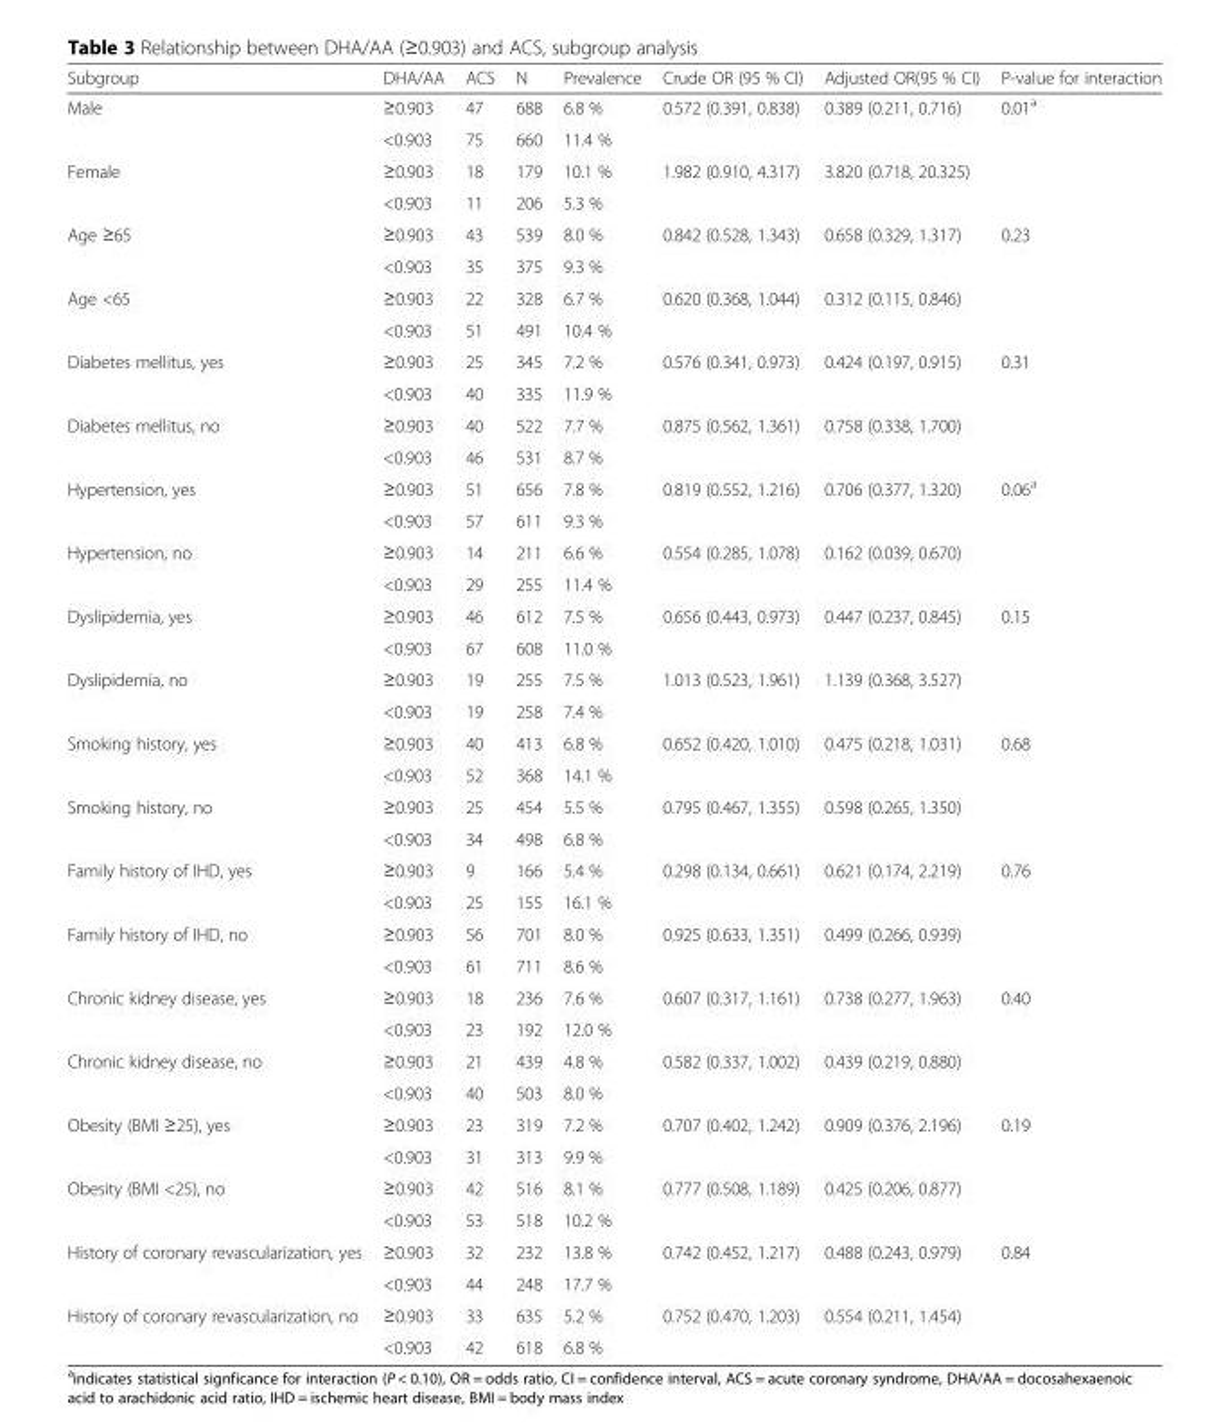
<table><thead><tr><td>Subgroup</td><td>DHA/AA</td><td>ACS</td><td>N</td><td>Prevalence</td><td>Crude OR (95 % CI)</td><td>Adjusted OR(95 % CI)</td><td>P-value for interaction</td></tr></thead><tbody><tr><td rowspan="2">Male</td><td>≥0.903</td><td>47</td><td>688</td><td>6.8 %</td><td>0.572 (0.391, 0.838)</td><td>0.389 (0.211, 0.716)</td><td rowspan="4">0.01<sup>a</sup></td></tr><tr><td>&lt;0.903</td><td>75</td><td>660</td><td>11.4 %</td><td></td><td></td></tr><tr><td rowspan="2">Female</td><td>≥0.903</td><td>18</td><td>179</td><td>10.1 %</td><td>1.982 (0.910, 4.317)</td><td>3.820 (0.718, 20.325)</td></tr><tr><td>&lt;0.903</td><td>11</td><td>206</td><td>5.3 %</td><td></td><td></td></tr><tr><td rowspan="2">Age ≥65</td><td>≥0.903</td><td>43</td><td>539</td><td>8.0 %</td><td>0.842 (0.528, 1.343)</td><td>0.658 (0.329, 1.317)</td><td rowspan="4">0.23</td></tr><tr><td>&lt;0.903</td><td>35</td><td>375</td><td>9.3 %</td><td></td><td></td></tr><tr><td rowspan="2">Age &lt;65</td><td>≥0.903</td><td>22</td><td>328</td><td>6.7 %</td><td>0.620 (0.368, 1.044)</td><td>0.312 (0.115, 0.846)</td></tr><tr><td>&lt;0.903</td><td>51</td><td>491</td><td>10.4 %</td><td></td><td></td></tr><tr><td rowspan="2">Diabetes mellitus, yes</td><td>≥0.903</td><td>25</td><td>345</td><td>7.2 %</td><td>0.576 (0.341, 0.973)</td><td>0.424 (0.197, 0.915)</td><td rowspan="4">0.31</td></tr><tr><td>&lt;0.903</td><td>40</td><td>335</td><td>11.9 %</td><td></td><td></td></tr><tr><td rowspan="2">Diabetes mellitus, no</td><td>≥0.903</td><td>40</td><td>522</td><td>7.7 %</td><td>0.875 (0.562, 1.361)</td><td>0.758 (0.338, 1.700)</td></tr><tr><td>&lt;0.903</td><td>46</td><td>531</td><td>8.7 %</td><td></td><td></td></tr><tr><td rowspan="2">Hypertension, yes</td><td>≥0.903</td><td>51</td><td>656</td><td>7.8 %</td><td>0.819 (0.552, 1.216)</td><td>0.706 (0.377, 1.320)</td><td rowspan="4">0.06<sup>a</sup></td></tr><tr><td>&lt;0.903</td><td>57</td><td>611</td><td>9.3 %</td><td></td><td></td></tr><tr><td rowspan="2">Hypertension, no</td><td>≥0.903</td><td>14</td><td>211</td><td>6.6 %</td><td>0.554 (0.285, 1.078)</td><td>0.162 (0.039, 0.670)</td></tr><tr><td>&lt;0.903</td><td>29</td><td>255</td><td>11.4 %</td><td></td><td></td></tr><tr><td rowspan="2">Dyslipidemia, yes</td><td>≥0.903</td><td>46</td><td>612</td><td>7.5 %</td><td>0.656 (0.443, 0.973)</td><td>0.447 (0.237, 0.845)</td><td rowspan="4">0.15</td></tr><tr><td>&lt;0.903</td><td>67</td><td>608</td><td>11.0 %</td><td></td><td></td></tr><tr><td rowspan="2">Dyslipidemia, no</td><td>≥0.903</td><td>19</td><td>255</td><td>7.5 %</td><td>1.013 (0.523, 1.961)</td><td>1.139 (0.368, 3.527)</td></tr><tr><td>&lt;0.903</td><td>19</td><td>258</td><td>7.4 %</td><td></td><td></td></tr><tr><td rowspan="2">Smoking history, yes</td><td>≥0.903</td><td>40</td><td>413</td><td>6.8 %</td><td>0.652 (0.420, 1.010)</td><td>0.475 (0.218, 1.031)</td><td rowspan="4">0.68</td></tr><tr><td>&lt;0.903</td><td>52</td><td>368</td><td>14.1 %</td><td></td><td></td></tr><tr><td rowspan="2">Smoking history, no</td><td>≥0.903</td><td>25</td><td>454</td><td>5.5 %</td><td>0.795 (0.467, 1.355)</td><td>0.598 (0.265, 1.350)</td></tr><tr><td>&lt;0.903</td><td>34</td><td>498</td><td>6.8 %</td><td></td><td></td></tr><tr><td rowspan="2">Family history of IHD, yes</td><td>≥0.903</td><td>9</td><td>166</td><td>5.4 %</td><td>0.298 (0.134, 0.661)</td><td>0.621 (0.174, 2.219)</td><td rowspan="4">0.76</td></tr><tr><td>&lt;0.903</td><td>25</td><td>155</td><td>16.1 %</td><td></td><td></td></tr><tr><td rowspan="2">Family history of IHD, no</td><td>≥0.903</td><td>56</td><td>701</td><td>8.0 %</td><td>0.925 (0.633, 1.351)</td><td>0.499 (0.266, 0.939)</td></tr><tr><td>&lt;0.903</td><td>61</td><td>711</td><td>8.6 %</td><td></td><td></td></tr><tr><td rowspan="2">Chronic kidney disease, yes</td><td>≥0.903</td><td>18</td><td>236</td><td>7.6 %</td><td>0.607 (0.317, 1.161)</td><td>0.738 (0.277, 1.963)</td><td rowspan="4">0.40</td></tr><tr><td>&lt;0.903</td><td>23</td><td>192</td><td>12.0 %</td><td></td><td></td></tr><tr><td rowspan="2">Chronic kidney disease, no</td><td>≥0.903</td><td>21</td><td>439</td><td>4.8 %</td><td>0.582 (0.337, 1.002)</td><td>0.439 (0.219, 0.880)</td></tr><tr><td>&lt;0.903</td><td>40</td><td>503</td><td>8.0 %</td><td></td><td></td></tr><tr><td rowspan="2">Obesity (BMI ≥25), yes</td><td>≥0.903</td><td>23</td><td>319</td><td>7.2 %</td><td>0.707 (0.402, 1.242)</td><td>0.909 (0.376, 2.196)</td><td rowspan="4">0.19</td></tr><tr><td>&lt;0.903</td><td>31</td><td>313</td><td>9.9 %</td><td></td><td></td></tr><tr><td rowspan="2">Obesity (BMI &lt;25), no</td><td>≥0.903</td><td>42</td><td>516</td><td>8.1 %</td><td>0.777 (0.508, 1.189)</td><td>0.425 (0.206, 0.877)</td></tr><tr><td>&lt;0.903</td><td>53</td><td>518</td><td>10.2 %</td><td></td><td></td></tr><tr><td rowspan="2">History of coronary revascularization, yes</td><td>≥0.903</td><td>32</td><td>232</td><td>13.8 %</td><td>0.742 (0.452, 1.217)</td><td>0.488 (0.243, 0.979)</td><td rowspan="4">0.84</td></tr><tr><td>&lt;0.903</td><td>44</td><td>248</td><td>17.7 %</td><td></td><td></td></tr><tr><td rowspan="2">History of coronary revascularization, no</td><td>≥0.903</td><td>33</td><td>635</td><td>5.2 %</td><td>0.752 (0.470, 1.203)</td><td>0.554 (0.211, 1.454)</td></tr><tr><td>&lt;0.903</td><td>42</td><td>618</td><td>6.8 %</td><td></td><td></td></tr></tbody></table>